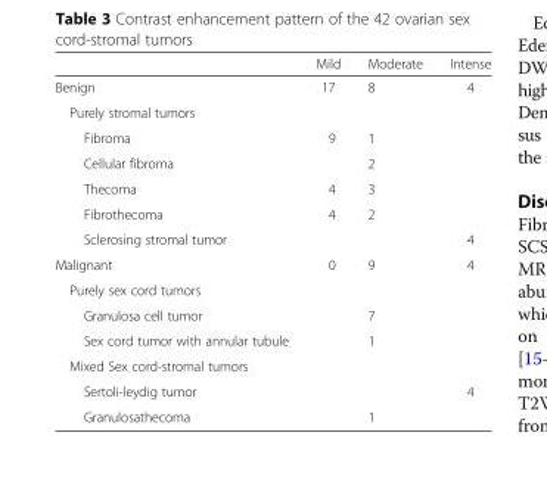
<table><thead><tr><td></td><td>Mild</td><td>Moderate</td><td>Intense</td></tr></thead><tbody><tr><td>Benign</td><td>17</td><td>8</td><td>4</td></tr><tr><td colspan="4">Purely stromal tumors</td></tr><tr><td>Fibroma</td><td>9</td><td>1</td><td></td></tr><tr><td>Cellular fibroma</td><td></td><td>2</td><td></td></tr><tr><td>Thecoma</td><td>4</td><td>3</td><td></td></tr><tr><td>Fibrothecoma</td><td>4</td><td>2</td><td></td></tr><tr><td>Sclerosing stromal tumor</td><td></td><td></td><td>4</td></tr><tr><td>Malignant</td><td>0</td><td>9</td><td>4</td></tr><tr><td colspan="4">Purely sex cord tumors</td></tr><tr><td>Granulosa cell tumor</td><td></td><td>7</td><td></td></tr><tr><td>Sex cord tumor with annular tubule</td><td></td><td>1</td><td></td></tr><tr><td colspan="4">Mixed Sex cord-stromal tumors</td></tr><tr><td>Sertoli-leydig tumor</td><td></td><td></td><td>4</td></tr><tr><td>Granulosathecoma</td><td></td><td>1</td><td></td></tr></tbody></table>